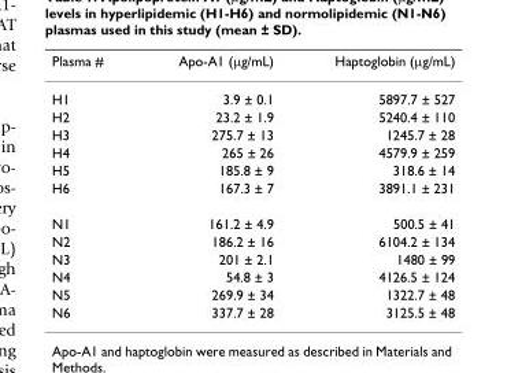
<table><thead><tr><td>Plasma #</td><td>Apo-A1 (μg/mL)</td><td>Haptoglobin (μg/mL)</td></tr></thead><tbody><tr><td>H1</td><td>3.9 ± 0.1</td><td>5897.7 ± 527</td></tr><tr><td>H2</td><td>23.2 ± 1.9</td><td>5240.4 ± 110</td></tr><tr><td>H3</td><td>275.7 ± 13</td><td>1245.7 ± 28</td></tr><tr><td>H4</td><td>265 ± 26</td><td>4579.9 ± 259</td></tr><tr><td>H5</td><td>185.8 ± 9</td><td>318.6 ± 14</td></tr><tr><td>H6</td><td>167.3 ± 7</td><td>3891.1 ± 231</td></tr><tr><td>N1</td><td>161.2 ± 4.9</td><td>500.5 ± 41</td></tr><tr><td>N2</td><td>186.2 ± 16</td><td>6104.2 ± 134</td></tr><tr><td>N3</td><td>201 ± 2.1</td><td>1480 ± 99</td></tr><tr><td>N4</td><td>54.8 ± 3</td><td>4126.5 ± 124</td></tr><tr><td>N5</td><td>269.9 ± 34</td><td>1322.7 ± 48</td></tr><tr><td>N6</td><td>337.7 ± 28</td><td>3125.5 ± 48</td></tr></tbody></table>